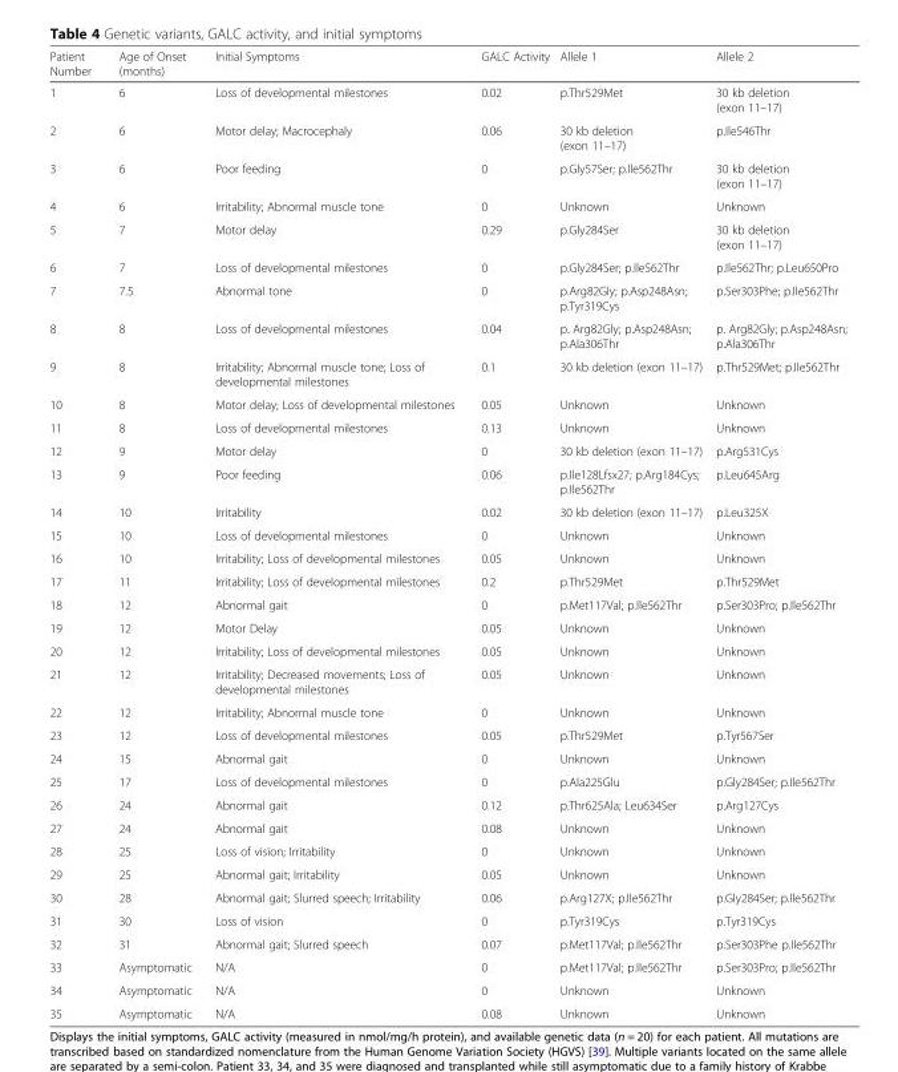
<table><thead><tr><td>Patient Number</td><td>Age of Onset (months)</td><td>Initial Symptoms</td><td>GALC Activity</td><td>Allele 1</td><td>Allele 2</td></tr></thead><tbody><tr><td>1</td><td>6</td><td>Loss of developmental milestones</td><td>0.02</td><td>p.Thr529Met</td><td>30 kb deletion (exon 11–17)</td></tr><tr><td>2</td><td>6</td><td>Motor delay; Macrocephaly</td><td>0.06</td><td>30 kb deletion (exon 11–17)</td><td>p.Ile546Thr</td></tr><tr><td>3</td><td>6</td><td>Poor feeding</td><td>0</td><td>p.Gly57Ser; p.Ile562Thr</td><td>30 kb deletion (exon 11–17)</td></tr><tr><td>4</td><td>6</td><td>Irritability; Abnormal muscle tone</td><td>0</td><td>Unknown</td><td>Unknown</td></tr><tr><td>5</td><td>7</td><td>Motor delay</td><td>0.29</td><td>p.Gly284Ser</td><td>30 kb deletion (exon 11–17)</td></tr><tr><td>6</td><td>7</td><td>Loss of developmental milestones</td><td>0</td><td>p.Gly284Ser; p.Ile562Thr</td><td>p.Ile562Thr; p.Leu650Pro</td></tr><tr><td>7</td><td>7.5</td><td>Abnormal tone</td><td>0</td><td>p.Arg82Gly; p.Asp248Asn; p.Tyr319Cys</td><td>p.Ser303Phe; p.Ile562Thr</td></tr><tr><td>8</td><td>8</td><td>Loss of developmental milestones</td><td>0.04</td><td>p. Arg82Gly; p.Asp248Asn; p.Ala306Thr</td><td>p. Arg82Gly; p.Asp248Asn; p.Ala306Thr</td></tr><tr><td>9</td><td>8</td><td>Irritability; Abnormal muscle tone; Loss of developmental milestones</td><td>0.1</td><td>30 kb deletion (exon 11–17)</td><td>p.Thr529Met; p.Ile562Thr</td></tr><tr><td>10</td><td>8</td><td>Motor delay; Loss of developmental milestones</td><td>0.05</td><td>Unknown</td><td>Unknown</td></tr><tr><td>11</td><td>8</td><td>Loss of developmental milestones</td><td>0.13</td><td>Unknown</td><td>Unknown</td></tr><tr><td>12</td><td>9</td><td>Motor delay</td><td>0</td><td>30 kb deletion (exon 11–17)</td><td>p.Arg531Cys</td></tr><tr><td>13</td><td>9</td><td>Poor feeding</td><td>0.06</td><td>p.Ile128Lfsx27; p.Arg184Cys; p.Ile562Thr</td><td>p.Leu645Arg</td></tr><tr><td>14</td><td>10</td><td>Irritability</td><td>0.02</td><td>30 kb deletion (exon 11–17)</td><td>p.Leu325X</td></tr><tr><td>15</td><td>10</td><td>Loss of developmental milestones</td><td>0</td><td>Unknown</td><td>Unknown</td></tr><tr><td>16</td><td>10</td><td>Irritability; Loss of developmental milestones</td><td>0.05</td><td>Unknown</td><td>Unknown</td></tr><tr><td>17</td><td>11</td><td>Irritability; Loss of developmental milestones</td><td>0.2</td><td>p.Thr529Met</td><td>p.Thr529Met</td></tr><tr><td>18</td><td>12</td><td>Abnormal gait</td><td>0</td><td>p.Met117Val; p.Ile562Thr</td><td>p.Ser303Pro; p.Ile562Thr</td></tr><tr><td>19</td><td>12</td><td>Motor Delay</td><td>0.05</td><td>Unknown</td><td>Unknown</td></tr><tr><td>20</td><td>12</td><td>Irritability; Loss of developmental milestones</td><td>0.05</td><td>Unknown</td><td>Unknown</td></tr><tr><td>21</td><td>12</td><td>Irritability; Decreased movements; Loss of developmental milestones</td><td>0.05</td><td>Unknown</td><td>Unknown</td></tr><tr><td>22</td><td>12</td><td>Irritability; Abnormal muscle tone</td><td>0</td><td>Unknown</td><td>Unknown</td></tr><tr><td>23</td><td>12</td><td>Loss of developmental milestones</td><td>0.05</td><td>p.Thr529Met</td><td>p.Tyr567Ser</td></tr><tr><td>24</td><td>15</td><td>Abnormal gait</td><td>0</td><td>Unknown</td><td>Unknown</td></tr><tr><td>25</td><td>17</td><td>Loss of developmental milestones</td><td>0</td><td>p.Ala225Glu</td><td>p.Gly284Ser; p.Ile562Thr</td></tr><tr><td>26</td><td>24</td><td>Abnormal gait</td><td>0.12</td><td>p.Thr625Ala; Leu634Ser</td><td>p.Arg127Cys</td></tr><tr><td>27</td><td>24</td><td>Abnormal gait</td><td>0.08</td><td>Unknown</td><td>Unknown</td></tr><tr><td>28</td><td>25</td><td>Loss of vision; Irritability</td><td>0</td><td>Unknown</td><td>Unknown</td></tr><tr><td>29</td><td>25</td><td>Abnormal gait; Irritability</td><td>0.05</td><td>Unknown</td><td>Unknown</td></tr><tr><td>30</td><td>28</td><td>Abnormal gait; Slurred speech; Irritability</td><td>0.06</td><td>p.Arg127X; p.Ile562Thr</td><td>p.Gly284Ser; p.Ile562Thr</td></tr><tr><td>31</td><td>30</td><td>Loss of vision</td><td>0</td><td>p.Tyr319Cys</td><td>p.Tyr319Cys</td></tr><tr><td>32</td><td>31</td><td>Abnormal gait; Slurred speech</td><td>0.07</td><td>p.Met117Val; p.Ile562Thr</td><td>p.Ser303Phe p.Ile562Thr</td></tr><tr><td>33</td><td>Asymptomatic</td><td>N/A</td><td>0</td><td>p.Met117Val; p.Ile562Thr</td><td>p.Ser303Pro; p.Ile562Thr</td></tr><tr><td>34</td><td>Asymptomatic</td><td>N/A</td><td>0</td><td>Unknown</td><td>Unknown</td></tr><tr><td>35</td><td>Asymptomatic</td><td>N/A</td><td>0.08</td><td>Unknown</td><td>Unknown</td></tr></tbody></table>